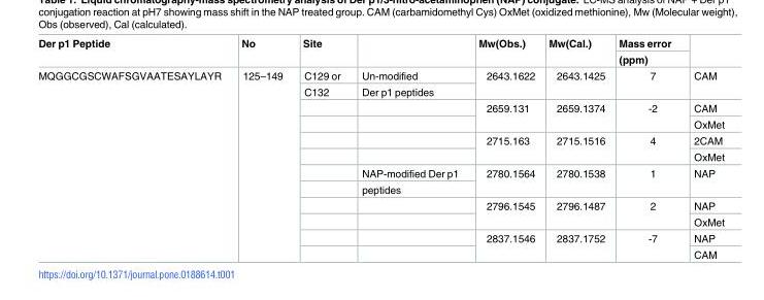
<table><thead><tr><td rowspan="2">Der p1 Peptide</td><td rowspan="2">No</td><td rowspan="2">Site</td><td rowspan="2"></td><td rowspan="2">Mw(Obs.)</td><td rowspan="2">Mw(Cal.)</td><td rowspan="2">Mass error (ppm)</td><td rowspan="2"></td></tr><tr></tr></thead><tbody><tr><td rowspan="12">MQGGCGSCWAFSGVAATESAYLAYR</td><td rowspan="12">125–149</td><td>C129 or</td><td>Un-modified</td><td rowspan="2">2643.1622</td><td rowspan="2">2643.1425</td><td rowspan="2">7</td><td rowspan="2">CAM</td></tr><tr><td>C132</td><td>Der p1 peptides</td></tr><tr><td></td><td></td><td rowspan="2">2659.131</td><td rowspan="2">2659.1374</td><td rowspan="2">-2</td><td>CAM</td></tr><tr><td></td><td></td><td>OxMet</td></tr><tr><td></td><td></td><td rowspan="2">2715.163</td><td rowspan="2">2715.1516</td><td rowspan="2">4</td><td>2CAM</td></tr><tr><td></td><td></td><td>OxMet</td></tr><tr><td></td><td>NAP-modified Der p1</td><td rowspan="2">2780.1564</td><td rowspan="2">2780.1538</td><td rowspan="2">1</td><td rowspan="2">NAP</td></tr><tr><td></td><td>peptides</td></tr><tr><td></td><td></td><td rowspan="2">2796.1545</td><td rowspan="2">2796.1487</td><td rowspan="2">2</td><td>NAP</td></tr><tr><td></td><td></td><td>OxMet</td></tr><tr><td></td><td></td><td rowspan="2">2837.1546</td><td rowspan="2">2837.1752</td><td rowspan="2">-7</td><td>NAP</td></tr><tr><td></td><td></td><td>CAM</td></tr></tbody></table>